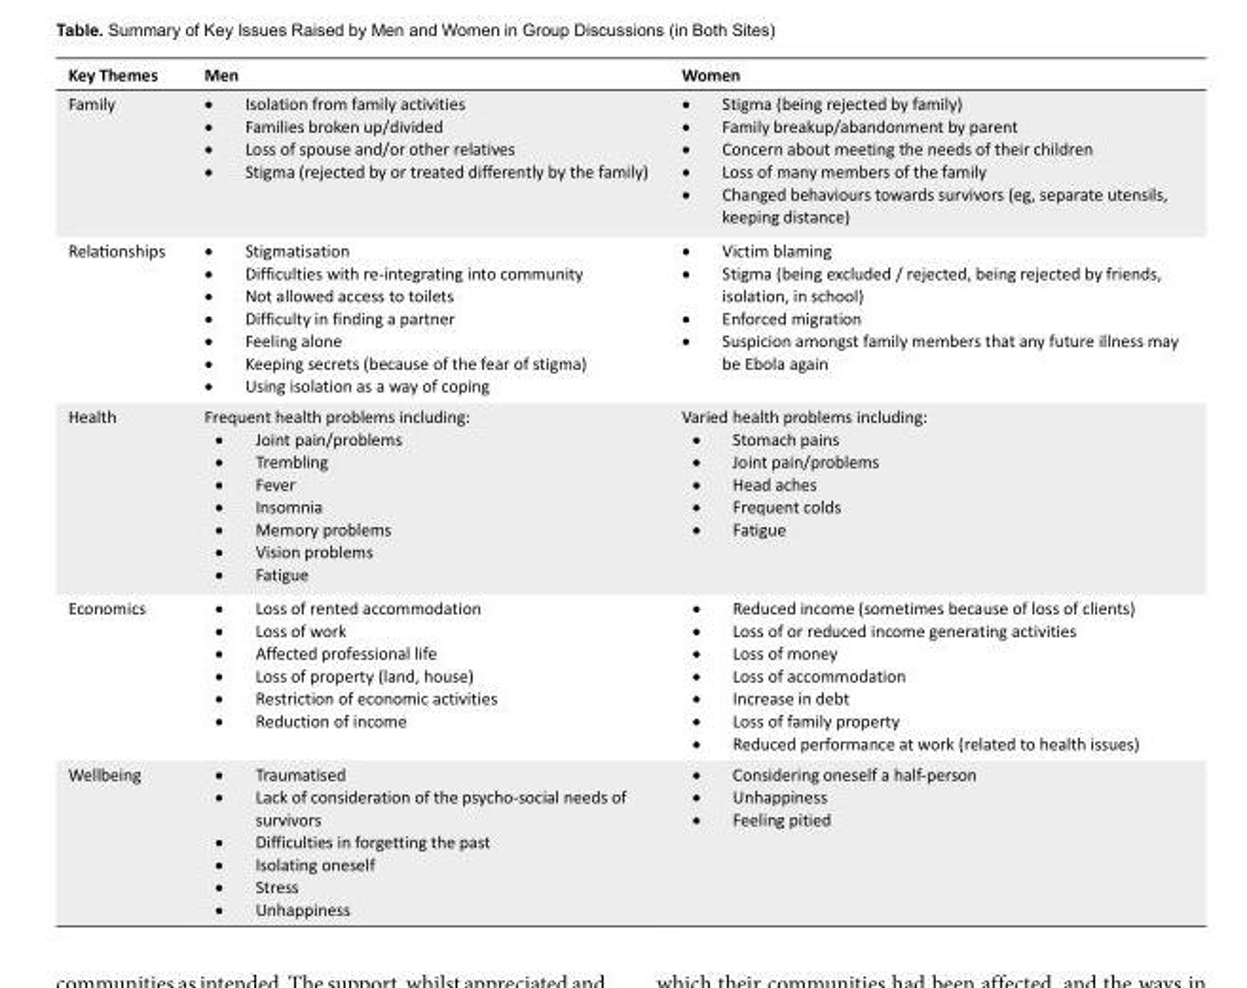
<table><tbody><tr><td>Key Themes</td><td>Men</td><td>Women</td></tr><tr><td>Family</td><td>• Isolation from family activities • Families broken up/divided • Loss of spouse and/or other relatives • Stigma (rejected by or treated differently by the family)</td><td>• Stigma (being rejected by family) • Family breakup/abandonment by parent • Concern about meeting the needs of their children • Loss of many members of the family • Changed behaviours towards survivors (eg, separate utensils, keeping distance)</td></tr><tr><td>Relationships</td><td>• Stigmatisation • Difficulties with re-integrating into community • Not allowed access to toilets • Difficulty in finding a partner • Feeling alone • Keeping secrets (because of the fear of stigma) • Using isolation as a way of coping</td><td>• Victim blaming • Stigma (being excluded / rejected, being rejected by friends, isolation, in school) • Enforced migration • Suspicion amongst family members that any future illness may be Ebola again</td></tr><tr><td>Health</td><td>Frequent health problems including: • Joint pain/problems • Trembling • Fever • Insomnia • Memory problems • Vision problems • Fatigue</td><td>Varied health problems including: • Stomach pains • Joint pain/problems • Head aches • Frequent colds • Fatigue</td></tr><tr><td>Economics</td><td>• Loss of rented accommodation • Loss of work • Affected professional life • Loss of property (land, house) • Restriction of economic activities • Reduction of income</td><td>• Reduced income (sometimes because of loss of clients) • Loss of or reduced income generating activities • Loss of money • Loss of accommodation • Increase in debt • Loss of family property • Reduced performance at work (related to health issues)</td></tr><tr><td>Wellbeing</td><td>• Traumatised • Lack of consideration of the psycho-social needs of survivors • Difficulties in forgetting the past • Isolating oneself • Stress • Unhappiness</td><td>• Considering oneself a half-person • Unhappiness • Feeling pitied</td></tr></tbody></table>